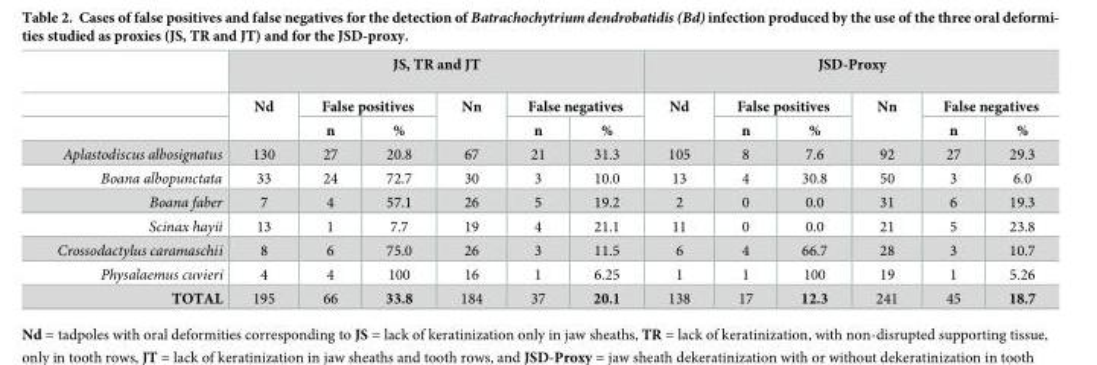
<table><thead><tr><td rowspan="3"></td><td colspan="6">JS, TR and JT</td><td colspan="6">JSD-Proxy</td></tr><tr><td rowspan="2">Nd</td><td colspan="2">False positives</td><td rowspan="2">Nn</td><td colspan="2">False negatives</td><td rowspan="2">Nd</td><td colspan="2">False positives</td><td rowspan="2">Nn</td><td colspan="2">False negatives</td></tr><tr><td>n</td><td>%</td><td>n</td><td>%</td><td>n</td><td>%</td><td>n</td><td>%</td></tr></thead><tbody><tr><td>Aplastodiscus albosignatus</td><td>130</td><td>27</td><td>20.8</td><td>67</td><td>21</td><td>31.3</td><td>105</td><td>8</td><td>7.6</td><td>92</td><td>27</td><td>29.3</td></tr><tr><td>Boana albopunctata</td><td>33</td><td>24</td><td>72.7</td><td>30</td><td>3</td><td>10.0</td><td>13</td><td>4</td><td>30.8</td><td>50</td><td>3</td><td>6.0</td></tr><tr><td>Boana faber</td><td>7</td><td>4</td><td>57.1</td><td>26</td><td>5</td><td>19.2</td><td>2</td><td>0</td><td>0.0</td><td>31</td><td>6</td><td>19.3</td></tr><tr><td>Scinax hayii</td><td>13</td><td>1</td><td>7.7</td><td>19</td><td>4</td><td>21.1</td><td>11</td><td>0</td><td>0.0</td><td>21</td><td>5</td><td>23.8</td></tr><tr><td>Crossodactylus caramaschii</td><td>8</td><td>6</td><td>75.0</td><td>26</td><td>3</td><td>11.5</td><td>6</td><td>4</td><td>66.7</td><td>28</td><td>3</td><td>10.7</td></tr><tr><td>Physalaemus cuvieri</td><td>4</td><td>4</td><td>100</td><td>16</td><td>1</td><td>6.25</td><td>1</td><td>1</td><td>100</td><td>19</td><td>1</td><td>5.26</td></tr><tr><td>TOTAL</td><td>195</td><td>66</td><td>33.8</td><td>184</td><td>37</td><td>20.1</td><td>138</td><td>17</td><td>12.3</td><td>241</td><td>45</td><td>18.7</td></tr></tbody></table>